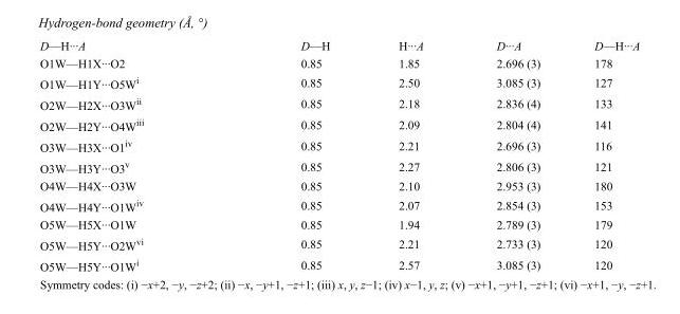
<table><tbody><tr><td>D—H···A</td><td>D—H</td><td>H···A</td><td>D···A</td><td>D—H···A</td></tr><tr><td>O1W—H1X···O2</td><td>0.85</td><td>1.85</td><td>2.696 (3)</td><td>178</td></tr><tr><td>O1W—H1Y···O5W<sup>i</sup></td><td>0.85</td><td>2.50</td><td>3.085 (3)</td><td>127</td></tr><tr><td>O2W—H2X···O3W<sup>ii</sup></td><td>0.85</td><td>2.18</td><td>2.836 (4)</td><td>133</td></tr><tr><td>O2W—H2Y···O4W<sup>iii</sup></td><td>0.85</td><td>2.09</td><td>2.804 (4)</td><td>141</td></tr><tr><td>O3W—H3X···O1<sup>iv</sup></td><td>0.85</td><td>2.21</td><td>2.696 (3)</td><td>116</td></tr><tr><td>O3W—H3Y···O3<sup>v</sup></td><td>0.85</td><td>2.27</td><td>2.806 (3)</td><td>121</td></tr><tr><td>O4W—H4X···O3W</td><td>0.85</td><td>2.10</td><td>2.953 (3)</td><td>180</td></tr><tr><td>O4W—H4Y···O1W<sup>iv</sup></td><td>0.85</td><td>2.07</td><td>2.854 (3)</td><td>153</td></tr><tr><td>O5W—H5X···O1W</td><td>0.85</td><td>1.94</td><td>2.789 (3)</td><td>179</td></tr><tr><td>O5W—H5Y···O2W<sup>vi</sup></td><td>0.85</td><td>2.21</td><td>2.733 (3)</td><td>120</td></tr><tr><td>O5W—H5Y···O1W<sup>i</sup></td><td>0.85</td><td>2.57</td><td>3.085 (3)</td><td>120</td></tr></tbody></table>